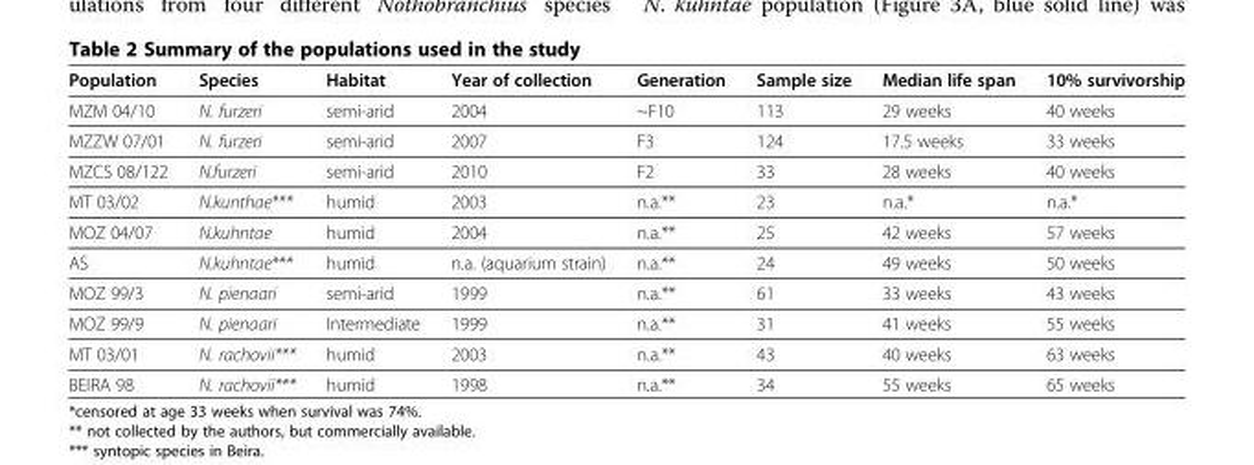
<table><thead><tr><td>Population</td><td>Species</td><td>Habitat</td><td>Year of collection</td><td>Generation</td><td>Sample size</td><td>Median life span</td><td>10% survivorship</td></tr></thead><tbody><tr><td>MZM 04/10</td><td>N. furzeri</td><td>semi-arid</td><td>2004</td><td>~F10</td><td>113</td><td>29 weeks</td><td>40 weeks</td></tr><tr><td>MZZW 07/01</td><td>N. furzeri</td><td>semi-arid</td><td>2007</td><td>F3</td><td>124</td><td>17.5 weeks</td><td>33 weeks</td></tr><tr><td>MZCS 08/122</td><td>N.furzeri</td><td>semi-arid</td><td>2010</td><td>F2</td><td>33</td><td>28 weeks</td><td>40 weeks</td></tr><tr><td>MT 03/02</td><td>N.kunthae***</td><td>humid</td><td>2003</td><td>n.a.**</td><td>23</td><td>n.a.*</td><td>n.a.*</td></tr><tr><td>MOZ 04/07</td><td>N.kuhntae</td><td>humid</td><td>2004</td><td>n.a.**</td><td>25</td><td>42 weeks</td><td>57 weeks</td></tr><tr><td>AS</td><td>N.kuhntae***</td><td>humid</td><td>n.a. (aquarium strain)</td><td>n.a.**</td><td>24</td><td>49 weeks</td><td>50 weeks</td></tr><tr><td>MOZ 99/3</td><td>N. pienaari</td><td>semi-arid</td><td>1999</td><td>n.a.**</td><td>61</td><td>33 weeks</td><td>43 weeks</td></tr><tr><td>MOZ 99/9</td><td>N. pienaari</td><td>Intermediate</td><td>1999</td><td>n.a.**</td><td>31</td><td>41 weeks</td><td>55 weeks</td></tr><tr><td>MT 03/01</td><td>N. rachovii***</td><td>humid</td><td>2003</td><td>n.a.**</td><td>43</td><td>40 weeks</td><td>63 weeks</td></tr><tr><td>BEIRA 98</td><td>N. rachovii***</td><td>humid</td><td>1998</td><td>n.a.**</td><td>34</td><td>55 weeks</td><td>65 weeks</td></tr></tbody></table>